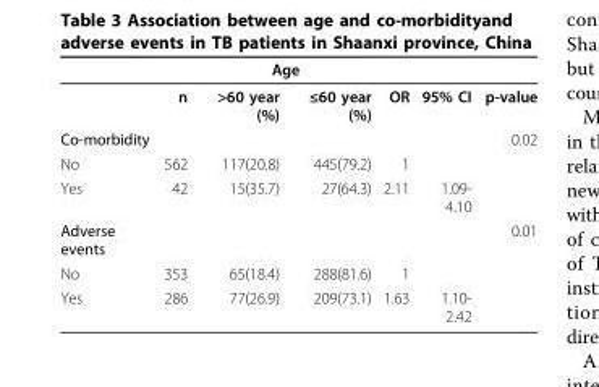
<table><thead><tr><td rowspan="2"></td><td rowspan="2">n</td><td colspan="2">Age</td><td rowspan="2">OR</td><td rowspan="2">95% CI</td><td rowspan="2">p-value</td></tr><tr><td>&gt;60 year (%)</td><td>≤60 year (%)</td></tr></thead><tbody><tr><td>Co-morbidity</td><td></td><td></td><td></td><td></td><td></td><td>0.02</td></tr><tr><td>No</td><td>562</td><td>117(20.8)</td><td>445(79.2)</td><td>1</td><td></td><td></td></tr><tr><td>Yes</td><td>42</td><td>15(35.7)</td><td>27(64.3)</td><td>2.11</td><td>1.09- 4.10</td><td></td></tr><tr><td>Adverse events</td><td></td><td></td><td></td><td></td><td></td><td>0.01</td></tr><tr><td>No</td><td>353</td><td>65(18.4)</td><td>288(81.6)</td><td>1</td><td></td><td></td></tr><tr><td>Yes</td><td>286</td><td>77(26.9)</td><td>209(73.1)</td><td>1.63</td><td>1.10- 2.42</td><td></td></tr></tbody></table>